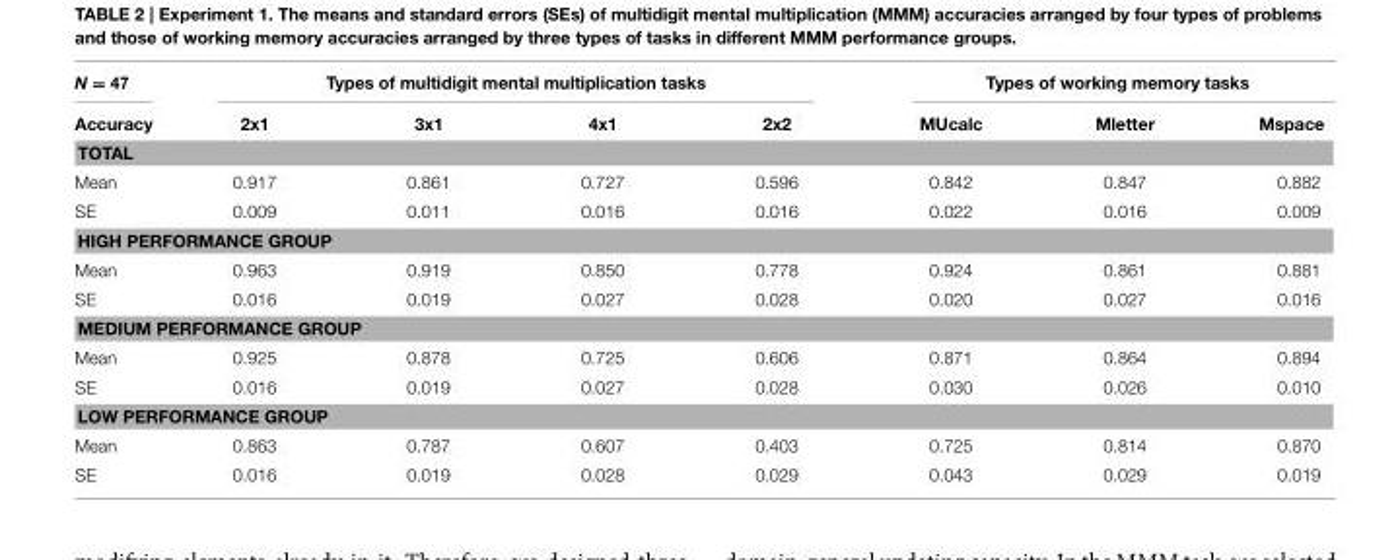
<table><thead><tr><td rowspan="2">N = 47 Accuracy</td><td colspan="4">Types of multidigit mental multiplication tasks</td><td colspan="3">Types of working memory tasks</td></tr><tr><td>2x1</td><td>3x1</td><td>4x1</td><td>2x2</td><td>MUcalc</td><td>Mletter</td><td>Mspace</td></tr></thead><tbody><tr><td colspan="8">TOTAL</td></tr><tr><td>Mean</td><td>0.917</td><td>0.861</td><td>0.727</td><td>0.596</td><td>0.842</td><td>0.847</td><td>0.882</td></tr><tr><td>SE</td><td>0.009</td><td>0.011</td><td>0.016</td><td>0.016</td><td>0.022</td><td>0.016</td><td>0.009</td></tr><tr><td colspan="8">HIGH PERFORMANCE GROUP</td></tr><tr><td>Mean</td><td>0.963</td><td>0.919</td><td>0.850</td><td>0.778</td><td>0.924</td><td>0.861</td><td>0.881</td></tr><tr><td>SE</td><td>0.016</td><td>0.019</td><td>0.027</td><td>0.028</td><td>0.020</td><td>0.027</td><td>0.016</td></tr><tr><td colspan="8">MEDIUM PERFORMANCE GROUP</td></tr><tr><td>Mean</td><td>0.925</td><td>0.878</td><td>0.725</td><td>0.606</td><td>0.871</td><td>0.864</td><td>0.894</td></tr><tr><td>SE</td><td>0.016</td><td>0.019</td><td>0.027</td><td>0.028</td><td>0.030</td><td>0.026</td><td>0.010</td></tr><tr><td colspan="8">LOW PERFORMANCE GROUP</td></tr><tr><td>Mean</td><td>0.863</td><td>0.787</td><td>0.607</td><td>0.403</td><td>0.725</td><td>0.814</td><td>0.870</td></tr><tr><td>SE</td><td>0.016</td><td>0.019</td><td>0.028</td><td>0.029</td><td>0.043</td><td>0.029</td><td>0.019</td></tr></tbody></table>